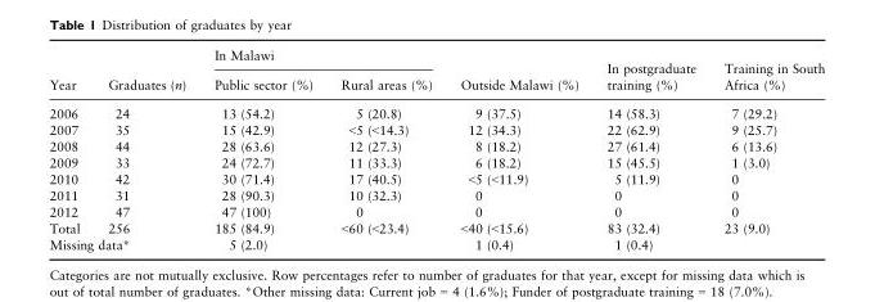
<table><thead><tr><td rowspan="2">Year</td><td rowspan="2">Graduates (n)</td><td colspan="2">In Malawi</td><td rowspan="2">Outside Malawi (%)</td><td rowspan="2">In postgraduate training (%)</td><td rowspan="2">Training in South Africa (%)</td></tr><tr><td>Public sector (%)</td><td>Rural areas (%)</td></tr></thead><tbody><tr><td>2006</td><td>24</td><td>13 (54.2)</td><td>5 (20.8)</td><td>9 (37.5)</td><td>14 (58.3)</td><td>7 (29.2)</td></tr><tr><td>2007</td><td>35</td><td>15 (42.9)</td><td>&lt;5 (&lt;14.3)</td><td>12 (34.3)</td><td>22 (62.9)</td><td>9 (25.7)</td></tr><tr><td>2008</td><td>44</td><td>28 (63.6)</td><td>12 (27.3)</td><td>8 (18.2)</td><td>27 (61.4)</td><td>6 (13.6)</td></tr><tr><td>2009</td><td>33</td><td>24 (72.7)</td><td>11 (33.3)</td><td>6 (18.2)</td><td>15 (45.5)</td><td>1 (3.0)</td></tr><tr><td>2010</td><td>42</td><td>30 (71.4)</td><td>17 (40.5)</td><td>&lt;5 (&lt;11.9)</td><td>5 (11.9)</td><td>0</td></tr><tr><td>2011</td><td>31</td><td>28 (90.3)</td><td>10 (32.3)</td><td>0</td><td>0</td><td>0</td></tr><tr><td>2012</td><td>47</td><td>47 (100)</td><td>0</td><td>0</td><td>0</td><td>0</td></tr><tr><td>Total</td><td>256</td><td>185 (84.9)</td><td>&lt;60 (&lt;23.4)</td><td>&lt;40 (&lt;15.6)</td><td>83 (32.4)</td><td>23 (9.0)</td></tr><tr><td colspan="2">Missing data*</td><td>5 (2.0)</td><td></td><td>1 (0.4)</td><td>1 (0.4)</td><td></td></tr></tbody></table>